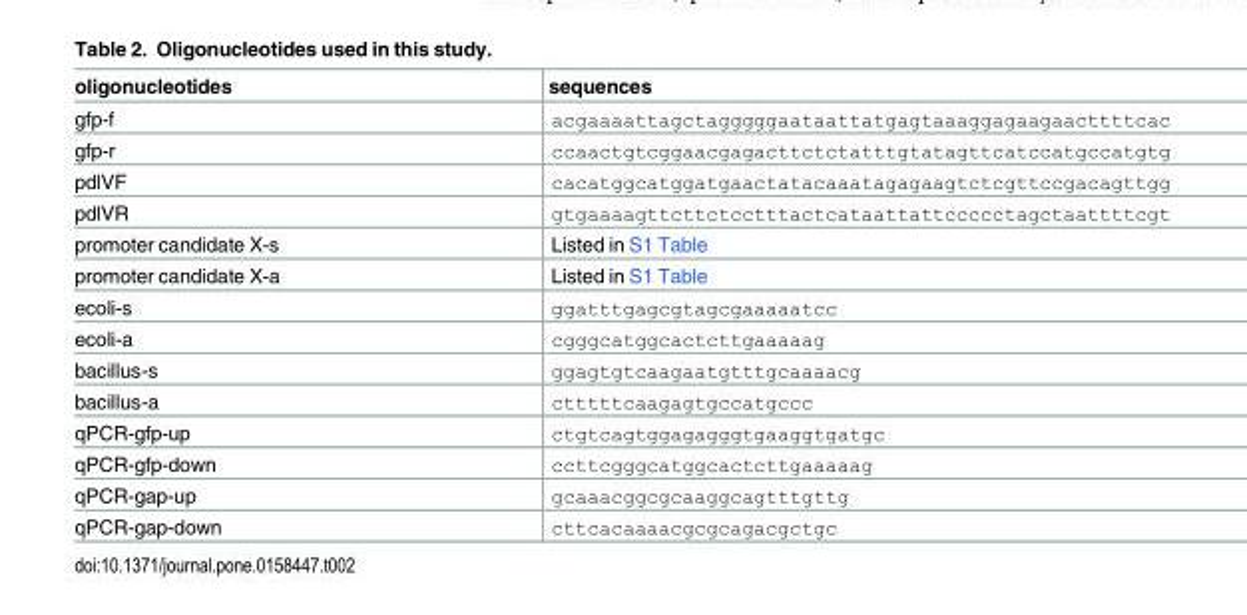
<table><thead><tr><td>oligonucleotides</td><td>sequences</td></tr></thead><tbody><tr><td>gfp-f</td><td>acgaaaattagctagggggaataattatgagtaaaggagaagaacttttcac</td></tr><tr><td>gfp-r</td><td>ccaactgtcggaacgagacttctctatttgtatagttcatccatgccatgtg</td></tr><tr><td>pdlVF</td><td>cacatggcatggatgaactatacaaatagagaagtctcgttccgacagttgg</td></tr><tr><td>pdlVR</td><td>gtgaaaagttcttctcctttactcataattattccccctagctaattttcgt</td></tr><tr><td>promoter candidate X-s</td><td>Listed in S1 Table</td></tr><tr><td>promoter candidate X-a</td><td>Listed in S1 Table</td></tr><tr><td>ecoli-s</td><td>ggatttgagcgtagcgaaaaatcc</td></tr><tr><td>ecoli-a</td><td>cgggcatggcactcttgaaaaag</td></tr><tr><td>bacillus-s</td><td>ggagtgtcaagaatgtttgcaaaacg</td></tr><tr><td>bacillus-a</td><td>ctttttcaagagtgccatgccc</td></tr><tr><td>qPCR-gfp-up</td><td>ctgtcagtggagagggtgaaggtgatgc</td></tr><tr><td>qPCR-gfp-down</td><td>ccttcgggcatggcactcttgaaaaag</td></tr><tr><td>qPCR-gap-up</td><td>gcaaacggcgcaaggcagtttgttg</td></tr><tr><td>qPCR-gap-down</td><td>cttcacaaaacgcgcagacgctgc</td></tr></tbody></table>